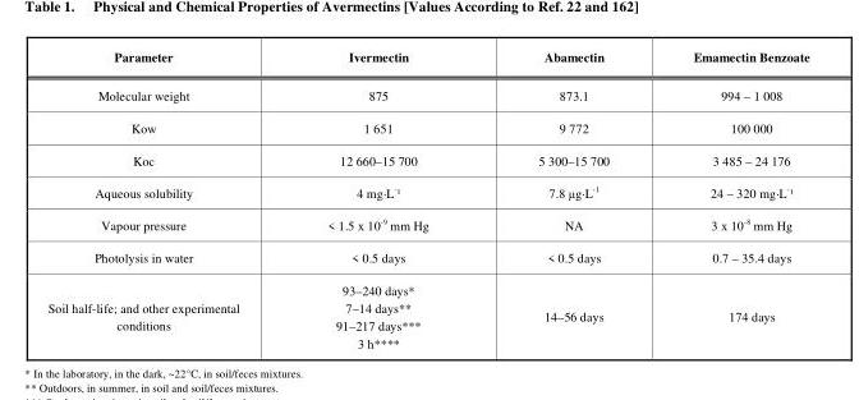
<table><thead><tr><td>Parameter</td><td>Ivermectin</td><td>Abamectin</td><td>Emamectin Benzoate</td></tr></thead><tbody><tr><td>Molecular weight</td><td>875</td><td>873.1</td><td>994 – 1 008</td></tr><tr><td>Kow</td><td>1 651</td><td>9 772</td><td>100 000</td></tr><tr><td>Koc</td><td>12 660–15 700</td><td>5 300–15 700</td><td>3 485 – 24 176</td></tr><tr><td>Aqueous solubility</td><td>4 mg·L<sup>-1</sup></td><td>7.8 μg·L<sup>-1</sup></td><td>24 – 320 mg·L<sup>-1</sup></td></tr><tr><td>Vapour pressure</td><td>&lt; 1.5 x 10<sup>-9</sup> mm Hg</td><td>NA</td><td>3 x 10<sup>-8</sup> mm Hg</td></tr><tr><td>Photolysis in water</td><td>&lt; 0.5 days</td><td>&lt; 0.5 days</td><td>0.7 – 35.4 days</td></tr><tr><td>Soil half-life; and other experimental conditions</td><td>93–240 days* 7–14 days** 91–217 days*** 3 h****</td><td>14–56 days</td><td>174 days</td></tr></tbody></table>